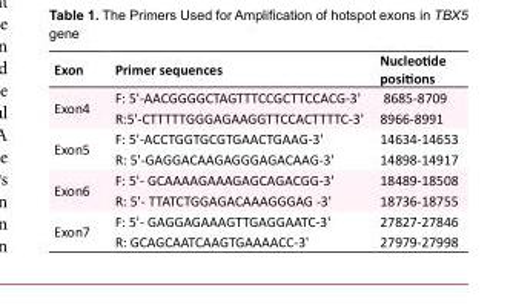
<table><tbody><tr><td>Exon</td><td>Primer sequences</td><td>Nucleotide positions</td></tr><tr><td rowspan="2">Exon4</td><td>F: 5&#x27;-AACGGGGCTAGTTTCCGCTTCCACG-3&#x27;</td><td>8685-8709</td></tr><tr><td>R:5&#x27;-CTTTTTGGGAGAAGGTTCCACTTTTC-3&#x27;</td><td>8966-8991</td></tr><tr><td rowspan="2">Exon5</td><td>F: 5&#x27;-ACCTGGTGCGTGAACTGAAG-3&#x27;</td><td>14634-14653</td></tr><tr><td>R: 5&#x27;-GAGGACAAGAGGGAGACAAG-3&#x27;</td><td>14898-14917</td></tr><tr><td rowspan="2">Exon6</td><td>F: 5&#x27;- GCAAAAGAAAGAGCAGACGG-3&#x27;</td><td>18489-18508</td></tr><tr><td>R: 5&#x27;- TTATCTGGAGACAAAGGGAG -3&#x27;</td><td>18736-18755</td></tr><tr><td rowspan="2">Exon7</td><td>F: 5&#x27;- GAGGAGAAAGTTGAGGAATC-3&#x27;</td><td>27827-27846</td></tr><tr><td>R: GCAGCAATCAAGTGAAAACC-3&#x27;</td><td>27979-27998</td></tr></tbody></table>